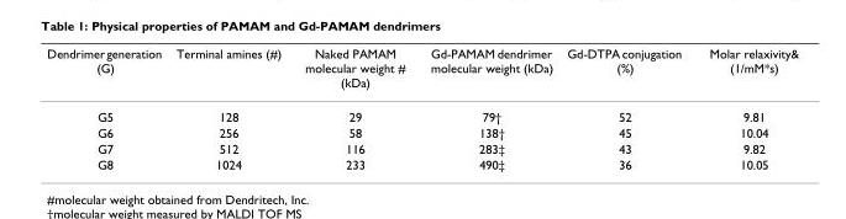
<table><thead><tr><td>Dendrimer generation (G)</td><td>Terminal amines (#)</td><td>Naked PAMAM molecular weight # (kDa)</td><td>Gd-PAMAM dendrimer molecular weight (kDa)</td><td>Gd-DTPA conjugation (%)</td><td>Molar relaxivity&amp; (1/mM*s)</td></tr></thead><tbody><tr><td>G5</td><td>128</td><td>29</td><td>79†</td><td>52</td><td>9.81</td></tr><tr><td>G6</td><td>256</td><td>58</td><td>138†</td><td>45</td><td>10.04</td></tr><tr><td>G7</td><td>512</td><td>116</td><td>283‡</td><td>43</td><td>9.82</td></tr><tr><td>G8</td><td>1024</td><td>233</td><td>490‡</td><td>36</td><td>10.05</td></tr></tbody></table>